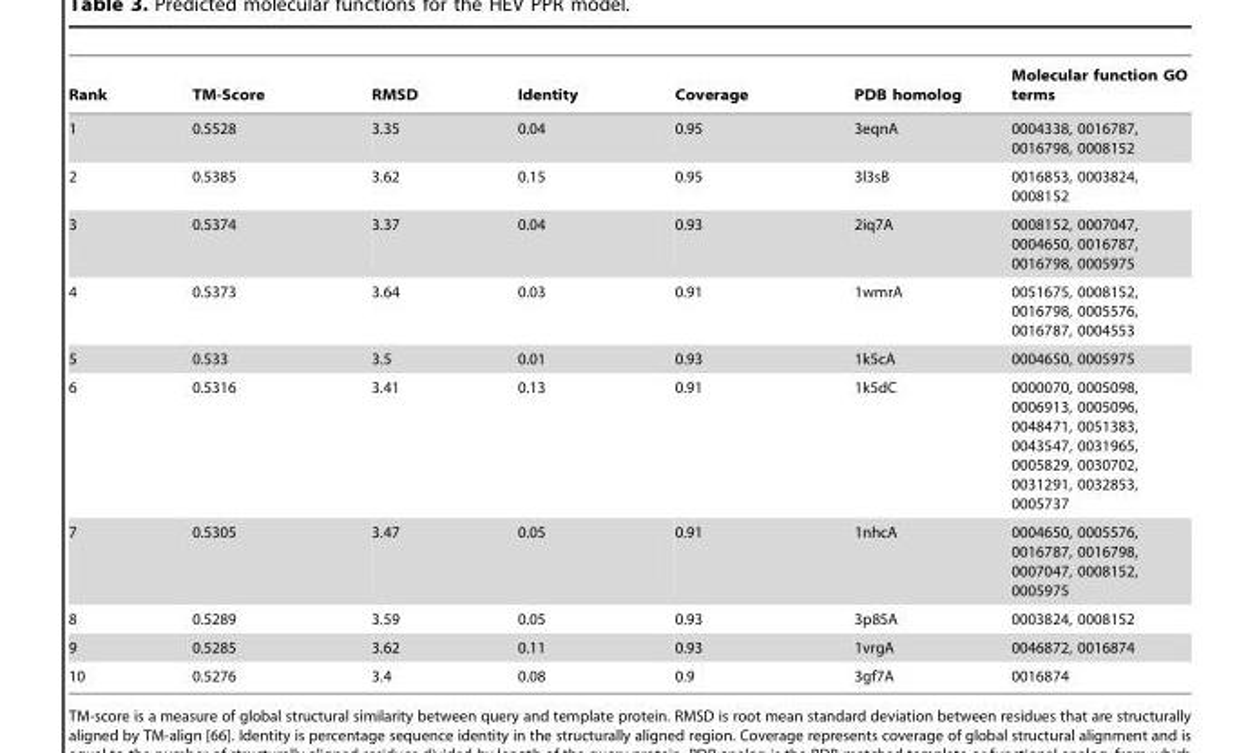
<table><thead><tr><td>Rank</td><td>TM-Score</td><td>RMSD</td><td>Identity</td><td>Coverage</td><td>PDB homolog</td><td>Molecular function GO terms</td></tr></thead><tbody><tr><td>1</td><td>0.5528</td><td>3.35</td><td>0.04</td><td>0.95</td><td>3eqnA</td><td>0004338, 0016787, 0016798, 0008152</td></tr><tr><td>2</td><td>0.5385</td><td>3.62</td><td>0.15</td><td>0.95</td><td>3l3sB</td><td>0016853, 0003824, 0008152</td></tr><tr><td>3</td><td>0.5374</td><td>3.37</td><td>0.04</td><td>0.93</td><td>2iq7A</td><td>0008152, 0007047, 0004650, 0016787, 0016798, 0005975</td></tr><tr><td>4</td><td>0.5373</td><td>3.64</td><td>0.03</td><td>0.91</td><td>1wmrA</td><td>0051675, 0008152, 0016798, 0005576, 0016787, 0004553</td></tr><tr><td>5</td><td>0.533</td><td>3.5</td><td>0.01</td><td>0.93</td><td>1k5cA</td><td>0004650, 0005975</td></tr><tr><td>6</td><td>0.5316</td><td>3.41</td><td>0.13</td><td>0.91</td><td>1k5dC</td><td>0000070, 0005098, 0006913, 0005096, 0048471, 0051383, 0043547, 0031965, 0005829, 0030702, 0031291, 0032853, 0005737</td></tr><tr><td>7</td><td>0.5305</td><td>3.47</td><td>0.05</td><td>0.91</td><td>1nhcA</td><td>0004650, 0005576, 0016787, 0016798, 0007047, 0008152, 0005975</td></tr><tr><td>8</td><td>0.5289</td><td>3.59</td><td>0.05</td><td>0.93</td><td>3p85A</td><td>0003824, 0008152</td></tr><tr><td>9</td><td>0.5285</td><td>3.62</td><td>0.11</td><td>0.93</td><td>1vrgA</td><td>0046872, 0016874</td></tr><tr><td>10</td><td>0.5276</td><td>3.4</td><td>0.08</td><td>0.9</td><td>3gf7A</td><td>0016874</td></tr></tbody></table>